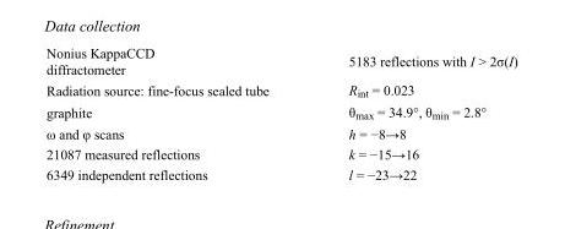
<table><tbody><tr><td>Nonius KappaCCD diffractometer</td><td>5183 reflections with I &gt; 2σ(I)</td></tr><tr><td>Radiation source: fine-focus sealed tube</td><td>R<sub>int</sub> = 0.023</td></tr><tr><td>graphite</td><td>θ<sub>max</sub> = 34.9°, θ<sub>min</sub> = 2.8°</td></tr><tr><td>ω and φ scans</td><td>h = −8→8</td></tr><tr><td>21087 measured reflections</td><td>k = −15→16</td></tr><tr><td>6349 independent reflections</td><td>l = −23→22</td></tr></tbody></table>